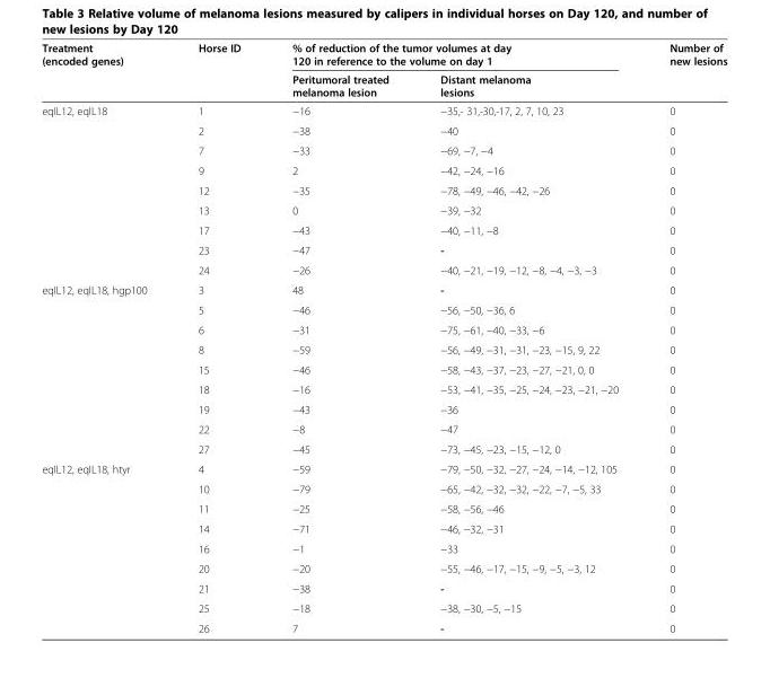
<table><thead><tr><td rowspan="2">Treatment (encoded genes)</td><td rowspan="2">Horse ID</td><td colspan="2">% of reduction of the tumor volumes at day 120 in reference to the volume on day 1</td><td rowspan="2">Number of new lesions</td></tr><tr><td>Peritumoral treated melanoma lesion</td><td>Distant melanoma lesions</td></tr></thead><tbody><tr><td rowspan="9">eqIL12, eqIL18</td><td>1</td><td>−16</td><td>−35,- 31,-30,-17, 2, 7, 10, 23</td><td>0</td></tr><tr><td>2</td><td>−38</td><td>−40</td><td>0</td></tr><tr><td>7</td><td>−33</td><td>−69, −7, −4</td><td>0</td></tr><tr><td>9</td><td>2</td><td>−42, −24, −16</td><td>0</td></tr><tr><td>12</td><td>−35</td><td>−78, −49, −46, −42, −26</td><td>0</td></tr><tr><td>13</td><td>0</td><td>−39, −32</td><td>0</td></tr><tr><td>17</td><td>−43</td><td>−40, −11, −8</td><td>0</td></tr><tr><td>23</td><td>−47</td><td>-</td><td>0</td></tr><tr><td>24</td><td>−26</td><td>−40, −21, −19, −12, −8, −4, −3, −3</td><td>0</td></tr><tr><td rowspan="9">eqIL12, eqIL18, hgp100</td><td>3</td><td>48</td><td>-</td><td>0</td></tr><tr><td>5</td><td>−46</td><td>−56, −50, −36, 6</td><td>0</td></tr><tr><td>6</td><td>−31</td><td>−75, −61, −40, −33, −6</td><td>0</td></tr><tr><td>8</td><td>−59</td><td>−56, −49, −31, −31, −23, −15, 9, 22</td><td>0</td></tr><tr><td>15</td><td>−46</td><td>−58, −43, −37, −23, −27, −21, 0, 0</td><td>0</td></tr><tr><td>18</td><td>−16</td><td>−53, −41, −35, −25, −24, −23, −21, −20</td><td>0</td></tr><tr><td>19</td><td>−43</td><td>−36</td><td>0</td></tr><tr><td>22</td><td>−8</td><td>−47</td><td>0</td></tr><tr><td>27</td><td>−45</td><td>−73, −45, −23, −15, −12, 0</td><td>0</td></tr><tr><td rowspan="9">eqIL12, eqIL18, htyr</td><td>4</td><td>−59</td><td>−79, −50, −32, −27, −24, −14, −12, 105</td><td>0</td></tr><tr><td>10</td><td>−79</td><td>−65, −42, −32, −32, −22, −7, −5, 33</td><td>0</td></tr><tr><td>11</td><td>−25</td><td>−58, −56, −46</td><td>0</td></tr><tr><td>14</td><td>−71</td><td>−46, −32, −31</td><td>0</td></tr><tr><td>16</td><td>−1</td><td>−33</td><td>0</td></tr><tr><td>20</td><td>−20</td><td>−55, −46, −17, −15, −9, −5, −3, 12</td><td>0</td></tr><tr><td>21</td><td>−38</td><td>-</td><td>0</td></tr><tr><td>25</td><td>−18</td><td>−38, −30, −5, −15</td><td>0</td></tr><tr><td>26</td><td>7</td><td>-</td><td>0</td></tr></tbody></table>